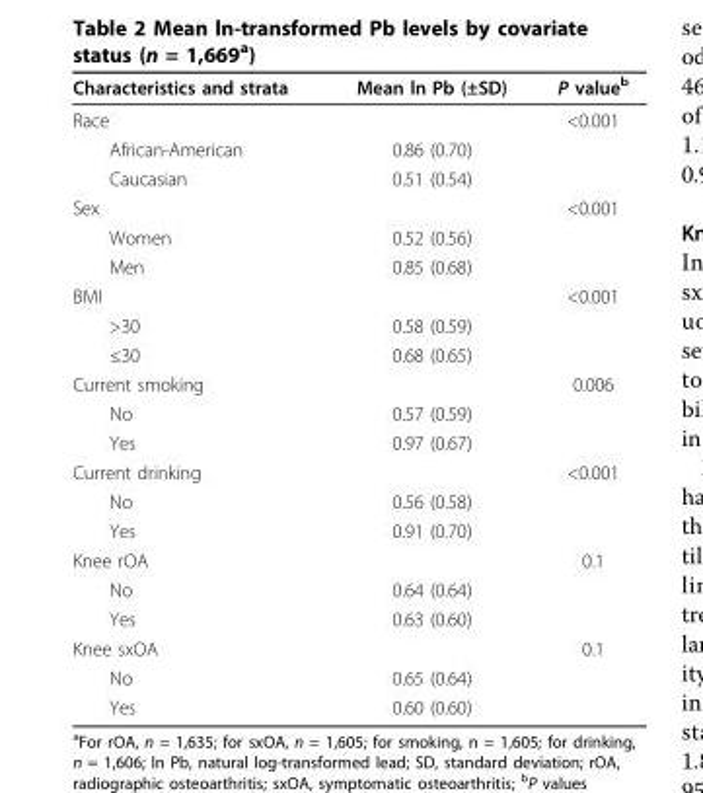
<table><thead><tr><td>Characteristics and strata</td><td>Mean ln Pb (±SD)</td><td>P value<sup>b</sup></td></tr></thead><tbody><tr><td>Race</td><td></td><td>&lt;0.001</td></tr><tr><td>African-American</td><td>0.86 (0.70)</td><td></td></tr><tr><td>Caucasian</td><td>0.51 (0.54)</td><td></td></tr><tr><td>Sex</td><td></td><td>&lt;0.001</td></tr><tr><td>Women</td><td>0.52 (0.56)</td><td></td></tr><tr><td>Men</td><td>0.85 (0.68)</td><td></td></tr><tr><td>BMI</td><td></td><td>&lt;0.001</td></tr><tr><td>&gt;30</td><td>0.58 (0.59)</td><td></td></tr><tr><td>≤30</td><td>0.68 (0.65)</td><td></td></tr><tr><td>Current smoking</td><td></td><td>0.006</td></tr><tr><td>No</td><td>0.57 (0.59)</td><td></td></tr><tr><td>Yes</td><td>0.97 (0.67)</td><td></td></tr><tr><td>Current drinking</td><td></td><td>&lt;0.001</td></tr><tr><td>No</td><td>0.56 (0.58)</td><td></td></tr><tr><td>Yes</td><td>0.91 (0.70)</td><td></td></tr><tr><td>Knee rOA</td><td></td><td>0.1</td></tr><tr><td>No</td><td>0.64 (0.64)</td><td></td></tr><tr><td>Yes</td><td>0.63 (0.60)</td><td></td></tr><tr><td>Knee sxOA</td><td></td><td>0.1</td></tr><tr><td>No</td><td>0.65 (0.64)</td><td></td></tr><tr><td>Yes</td><td>0.60 (0.60)</td><td></td></tr></tbody></table>